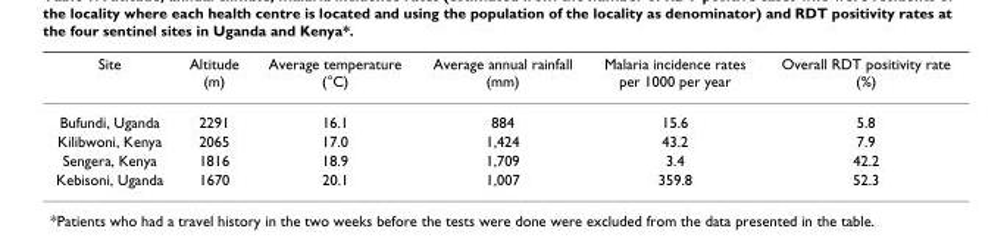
<table><thead><tr><td>Site</td><td>Altitude (m)</td><td>Average temperature (°C)</td><td>Average annual rainfall (mm)</td><td>Malaria incidence rates per 1000 per year</td><td>Overall RDT positivity rate (%)</td></tr></thead><tbody><tr><td>Bufundi, Uganda</td><td>2291</td><td>16.1</td><td>884</td><td>15.6</td><td>5.8</td></tr><tr><td>Kilibwoni, Kenya</td><td>2065</td><td>17.0</td><td>1,424</td><td>43.2</td><td>7.9</td></tr><tr><td>Sengera, Kenya</td><td>1816</td><td>18.9</td><td>1,709</td><td>3.4</td><td>42.2</td></tr><tr><td>Kebisoni, Uganda</td><td>1670</td><td>20.1</td><td>1,007</td><td>359.8</td><td>52.3</td></tr></tbody></table>